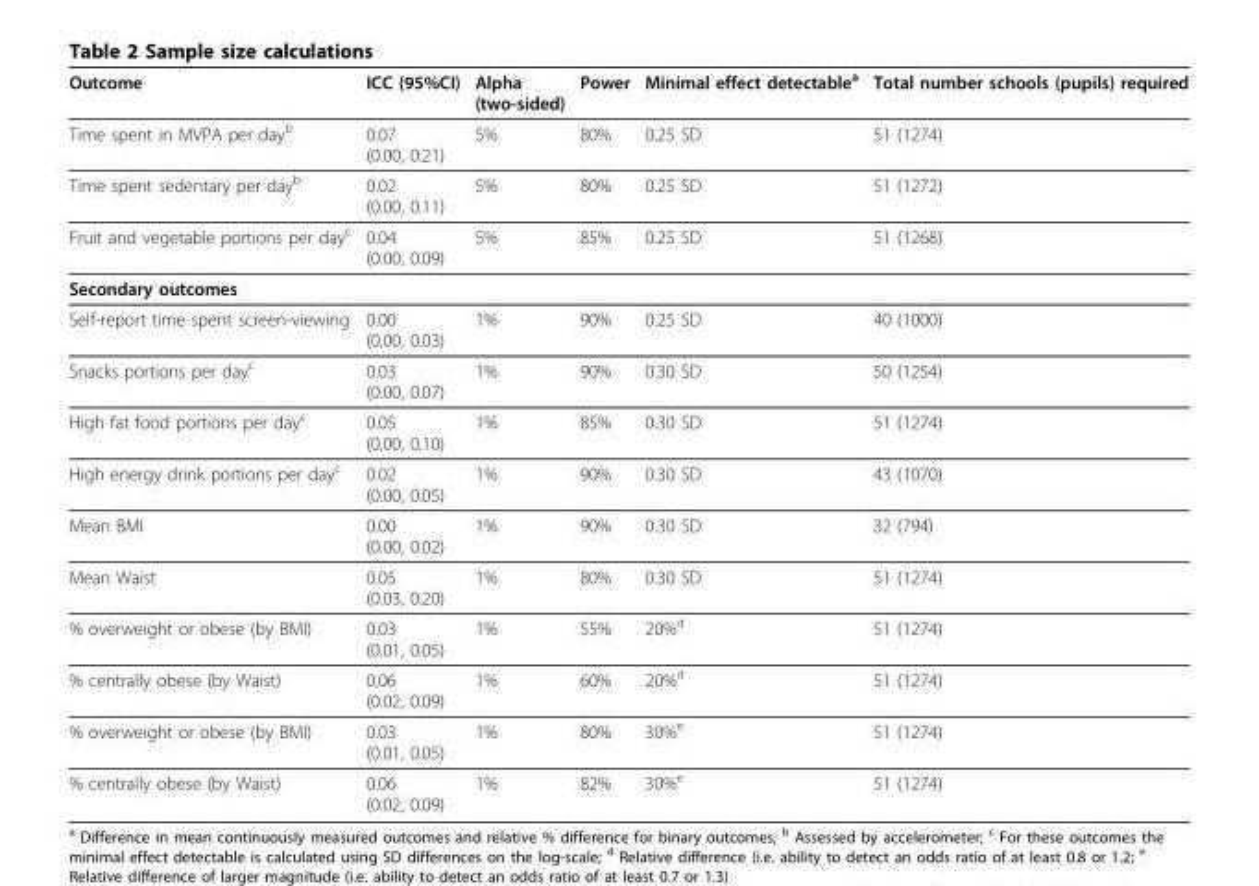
<table><thead><tr><td>Outcome</td><td>ICC (95%CI)</td><td>Alpha (two-sided)</td><td>Power</td><td>Minimal effect detectable<sup>a</sup></td><td>Total number schools (pupils) required</td></tr></thead><tbody><tr><td>Time spent in MVPA per day<sup>b</sup></td><td>0.07 (0.00, 0.21)</td><td>5%</td><td>80%</td><td>0.25 SD</td><td>51 (1274)</td></tr><tr><td>Time spent sedentary per day<sup>b</sup></td><td>0.02 (0.00, 0.11)</td><td>5%</td><td>80%</td><td>0.25 SD</td><td>51 (1272)</td></tr><tr><td>Fruit and vegetable portions per day<sup>c</sup></td><td>0.04 (0.00, 0.09)</td><td>5%</td><td>85%</td><td>0.25 SD</td><td>51 (1268)</td></tr><tr><td colspan="6">Secondary outcomes</td></tr><tr><td>Self-report time spent screen-viewing</td><td>0.00 (0.00, 0.03)</td><td>1%</td><td>90%</td><td>0.25 SD</td><td>40 (1000)</td></tr><tr><td>Snacks portions per day<sup>c</sup></td><td>0.03 (0.00, 0.07)</td><td>1%</td><td>90%</td><td>0.30 SD</td><td>50 (1254)</td></tr><tr><td>High fat food portions per day<sup>c</sup></td><td>0.05 (0.00, 0.10)</td><td>1%</td><td>85%</td><td>0.30 SD</td><td>51 (1274)</td></tr><tr><td>High energy drink portions per day<sup>c</sup></td><td>0.02 (0.00, 0.05)</td><td>1%</td><td>90%</td><td>0.30 SD</td><td>43 (1070)</td></tr><tr><td>Mean BMI</td><td>0.00 (0.00, 0.02)</td><td>1%</td><td>90%</td><td>0.30 SD</td><td>32 (794)</td></tr><tr><td>Mean Waist</td><td>0.05 (0.03, 0.20)</td><td>1%</td><td>80%</td><td>0.30 SD</td><td>51 (1274)</td></tr><tr><td>% overweight or obese (by BMI)</td><td>0.03 (0.01, 0.05)</td><td>1%</td><td>55%</td><td>20%<sup>d</sup></td><td>51 (1274)</td></tr><tr><td>% centrally obese (by Waist)</td><td>0.06 (0.02, 0.09)</td><td>1%</td><td>60%</td><td>20%<sup>d</sup></td><td>51 (1274)</td></tr><tr><td>% overweight or obese (by BMI)</td><td>0.03 (0.01, 0.05)</td><td>1%</td><td>80%</td><td>30%<sup>e</sup></td><td>51 (1274)</td></tr><tr><td>% centrally obese (by Waist)</td><td>0.06 (0.02, 0.09)</td><td>1%</td><td>82%</td><td>30%<sup>e</sup></td><td>51 (1274)</td></tr></tbody></table>